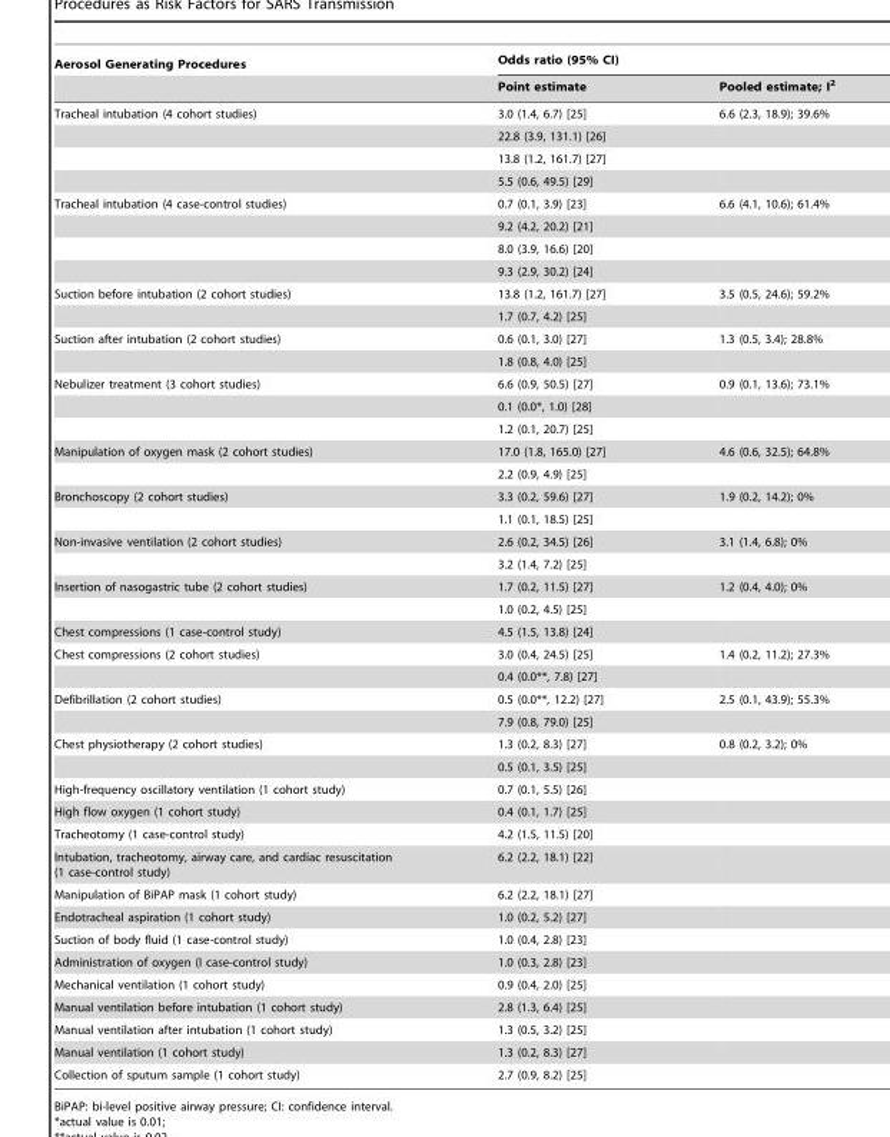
<table><thead><tr><td rowspan="2">Aerosol Generating Procedures</td><td colspan="2">Odds ratio (95% CI)</td></tr><tr><td>Point estimate</td><td>Pooled estimate; I<sup>2</sup></td></tr></thead><tbody><tr><td rowspan="4">Tracheal intubation (4 cohort studies)</td><td>3.0 (1.4, 6.7) [25]</td><td>6.6 (2.3, 18.9); 39.6%</td></tr><tr><td>22.8 (3.9, 131.1) [26]</td><td></td></tr><tr><td>13.8 (1.2, 161.7) [27]</td><td></td></tr><tr><td>5.5 (0.6, 49.5) [29]</td><td></td></tr><tr><td rowspan="4">Tracheal intubation (4 case-control studies)</td><td>0.7 (0.1, 3.9) [23]</td><td>6.6 (4.1, 10.6); 61.4%</td></tr><tr><td>9.2 (4.2, 20.2) [21]</td><td></td></tr><tr><td>8.0 (3.9, 16.6) [20]</td><td></td></tr><tr><td>9.3 (2.9, 30.2) [24]</td><td></td></tr><tr><td rowspan="2">Suction before intubation (2 cohort studies)</td><td>13.8 (1.2, 161.7) [27]</td><td>3.5 (0.5, 24.6); 59.2%</td></tr><tr><td>1.7 (0.7, 4.2) [25]</td><td></td></tr><tr><td rowspan="2">Suction after intubation (2 cohort studies)</td><td>0.6 (0.1, 3.0) [27]</td><td>1.3 (0.5, 3.4); 28.8%</td></tr><tr><td>1.8 (0.8, 4.0) [25]</td><td></td></tr><tr><td rowspan="3">Nebulizer treatment (3 cohort studies)</td><td>6.6 (0.9, 50.5) [27]</td><td>0.9 (0.1, 13.6); 73.1%</td></tr><tr><td>0.1 (0.0*, 1.0) [28]</td><td></td></tr><tr><td>1.2 (0.1, 20.7) [25]</td><td></td></tr><tr><td rowspan="2">Manipulation of oxygen mask (2 cohort studies)</td><td>17.0 (1.8, 165.0) [27]</td><td>4.6 (0.6, 32.5); 64.8%</td></tr><tr><td>2.2 (0.9, 4.9) [25]</td><td></td></tr><tr><td rowspan="2">Bronchoscopy (2 cohort studies)</td><td>3.3 (0.2, 59.6) [27]</td><td>1.9 (0.2, 14.2); 0%</td></tr><tr><td>1.1 (0.1, 18.5) [25]</td><td></td></tr><tr><td rowspan="2">Non-invasive ventilation (2 cohort studies)</td><td>2.6 (0.2, 34.5) [26]</td><td>3.1 (1.4, 6.8); 0%</td></tr><tr><td>3.2 (1.4, 7.2) [25]</td><td></td></tr><tr><td rowspan="2">Insertion of nasogastric tube (2 cohort studies)</td><td>1.7 (0.2, 11.5) [27]</td><td>1.2 (0.4, 4.0); 0%</td></tr><tr><td>1.0 (0.2, 4.5) [25]</td><td></td></tr><tr><td>Chest compressions (1 case-control study)</td><td>4.5 (1.5, 13.8) [24]</td><td></td></tr><tr><td rowspan="2">Chest compressions (2 cohort studies)</td><td>3.0 (0.4, 24.5) [25]</td><td>1.4 (0.2, 11.2); 27.3%</td></tr><tr><td>0.4 (0.0**, 7.8) [27]</td><td></td></tr><tr><td rowspan="2">Defibrillation (2 cohort studies)</td><td>0.5 (0.0**, 12.2) [27]</td><td>2.5 (0.1, 43.9); 55.3%</td></tr><tr><td>7.9 (0.8, 79.0) [25]</td><td></td></tr><tr><td rowspan="2">Chest physiotherapy (2 cohort studies)</td><td>1.3 (0.2, 8.3) [27]</td><td>0.8 (0.2, 3.2); 0%</td></tr><tr><td>0.5 (0.1, 3.5) [25]</td><td></td></tr><tr><td>High-frequency oscillatory ventilation (1 cohort study)</td><td>0.7 (0.1, 5.5) [26]</td><td></td></tr><tr><td>High flow oxygen (1 cohort study)</td><td>0.4 (0.1, 1.7) [25]</td><td></td></tr><tr><td>Tracheotomy (1 case-control study)</td><td>4.2 (1.5, 11.5) [20]</td><td></td></tr><tr><td>Intubation, tracheotomy, airway care, and cardiac resuscitation (1 case-control study)</td><td>6.2 (2.2, 18.1) [22]</td><td></td></tr><tr><td>Manipulation of BiPAP mask (1 cohort study)</td><td>6.2 (2.2, 18.1) [27]</td><td></td></tr><tr><td>Endotracheal aspiration (1 cohort study)</td><td>1.0 (0.2, 5.2) [27]</td><td></td></tr><tr><td>Suction of body fluid (1 case-control study)</td><td>1.0 (0.4, 2.8) [23]</td><td></td></tr><tr><td>Administration of oxygen (I case-control study)</td><td>1.0 (0.3, 2.8) [23]</td><td></td></tr><tr><td>Mechanical ventilation (1 cohort study)</td><td>0.9 (0.4, 2.0) [25]</td><td></td></tr><tr><td>Manual ventilation before intubation (1 cohort study)</td><td>2.8 (1.3, 6.4) [25]</td><td></td></tr><tr><td>Manual ventilation after intubation (1 cohort study)</td><td>1.3 (0.5, 3.2) [25]</td><td></td></tr><tr><td>Manual ventilation (1 cohort study)</td><td>1.3 (0.2, 8.3) [27]</td><td></td></tr><tr><td>Collection of sputum sample (1 cohort study)</td><td>2.7 (0.9, 8.2) [25]</td><td></td></tr></tbody></table>